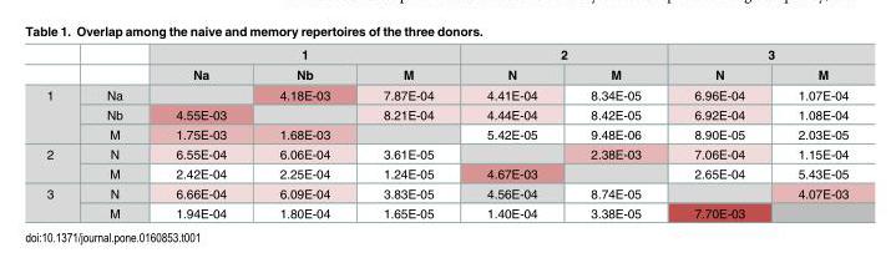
<table><thead><tr><td rowspan="2"></td><td rowspan="2"></td><td colspan="3">1</td><td colspan="2">2</td><td colspan="2">3</td></tr><tr><td>Na</td><td>Nb</td><td>M</td><td>N</td><td>M</td><td>N</td><td>M</td></tr></thead><tbody><tr><td rowspan="3">1</td><td>Na</td><td></td><td>4.18E-03</td><td>7.87E-04</td><td>4.41E-04</td><td>8.34E-05</td><td>6.96E-04</td><td>1.07E-04</td></tr><tr><td>Nb</td><td>4.55E-03</td><td></td><td>8.21E-04</td><td>4.44E-04</td><td>8.42E-05</td><td>6.92E-04</td><td>1.08E-04</td></tr><tr><td>M</td><td>1.75E-03</td><td>1.68E-03</td><td></td><td>5.42E-05</td><td>9.48E-06</td><td>8.90E-05</td><td>2.03E-05</td></tr><tr><td rowspan="2">2</td><td>N</td><td>6.55E-04</td><td>6.06E-04</td><td>3.61E-05</td><td></td><td>2.38E-03</td><td>7.06E-04</td><td>1.15E-04</td></tr><tr><td>M</td><td>2.42E-04</td><td>2.25E-04</td><td>1.24E-05</td><td>4.67E-03</td><td></td><td>2.65E-04</td><td>5.43E-05</td></tr><tr><td rowspan="2">3</td><td>N</td><td>6.66E-04</td><td>6.09E-04</td><td>3.83E-05</td><td>4.56E-04</td><td>8.74E-05</td><td></td><td>4.07E-03</td></tr><tr><td>M</td><td>1.94E-04</td><td>1.80E-04</td><td>1.65E-05</td><td>1.40E-04</td><td>3.38E-05</td><td>7.70E-03</td><td></td></tr></tbody></table>